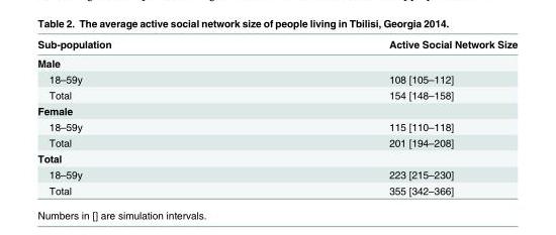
<table><thead><tr><td>Sub-population</td><td>Active Social Network Size</td></tr></thead><tbody><tr><td colspan="2">Male</td></tr><tr><td>18–59y</td><td>108 [105–112]</td></tr><tr><td>Total</td><td>154 [148–158]</td></tr><tr><td colspan="2">Female</td></tr><tr><td>18–59y</td><td>115 [110–118]</td></tr><tr><td>Total</td><td>201 [194–208]</td></tr><tr><td colspan="2">Total</td></tr><tr><td>18–59y</td><td>223 [215–230]</td></tr><tr><td>Total</td><td>355 [342–366]</td></tr></tbody></table>